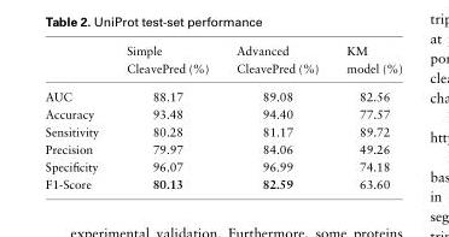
<table><thead><tr><td></td><td>Simple CleavePred (%)</td><td>Advanced CleavePred (%)</td><td>KM model (%)</td></tr></thead><tbody><tr><td>AUC</td><td>88.17</td><td>89.08</td><td>82.56</td></tr><tr><td>Accuracy</td><td>93.48</td><td>94.40</td><td>77.57</td></tr><tr><td>Sensitivity</td><td>80.28</td><td>81.17</td><td>89.72</td></tr><tr><td>Precision</td><td>79.97</td><td>84.06</td><td>49.26</td></tr><tr><td>Specificity</td><td>96.07</td><td>96.99</td><td>74.18</td></tr><tr><td>F1-Score</td><td>80.13</td><td>82.59</td><td>63.60</td></tr></tbody></table>